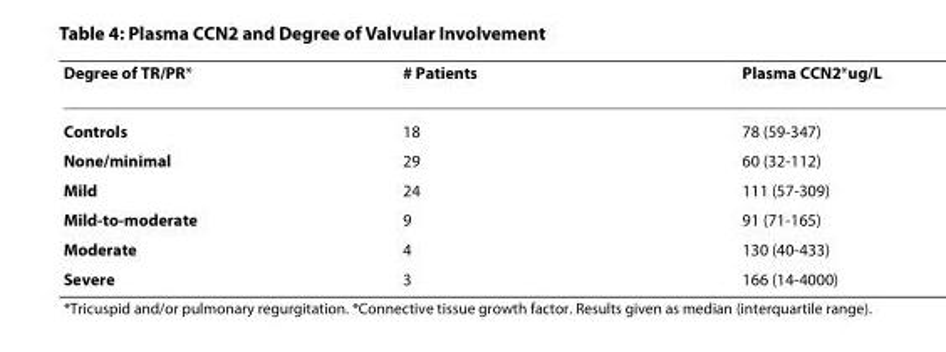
<table><thead><tr><td>Degree of TR/PR*</td><td># Patients</td><td>Plasma CCN2*ug/L</td></tr></thead><tbody><tr><td>Controls</td><td>18</td><td>78 (59-347)</td></tr><tr><td>None/minimal</td><td>29</td><td>60 (32-112)</td></tr><tr><td>Mild</td><td>24</td><td>111 (57-309)</td></tr><tr><td>Mild-to-moderate</td><td>9</td><td>91 (71-165)</td></tr><tr><td>Moderate</td><td>4</td><td>130 (40-433)</td></tr><tr><td>Severe</td><td>3</td><td>166 (14-4000)</td></tr></tbody></table>